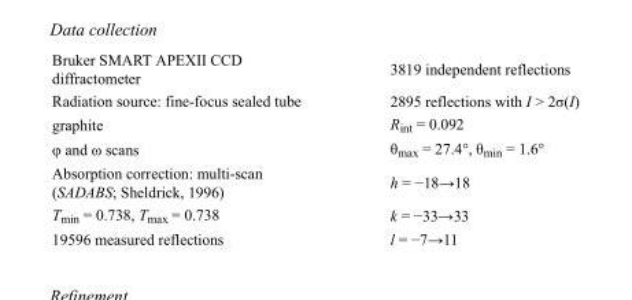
<table><tbody><tr><td>Bruker SMART APEXII CCD diffractometer</td><td>3819 independent reflections</td></tr><tr><td>Radiation source: fine-focus sealed tube</td><td>2895 reflections with I &gt; 2σ(I)</td></tr><tr><td>graphite</td><td>R<sub>int</sub> = 0.092</td></tr><tr><td>φ and ω scans</td><td>θ<sub>max</sub> = 27.4°, θ<sub>min</sub> = 1.6°</td></tr><tr><td>Absorption correction: multi-scan (SADABS; Sheldrick, 1996)</td><td>h = −18→18</td></tr><tr><td>T<sub>min</sub> = 0.738, T<sub>max</sub> = 0.738</td><td>k = −33→33</td></tr><tr><td>19596 measured reflections</td><td>l = −7→11</td></tr></tbody></table>